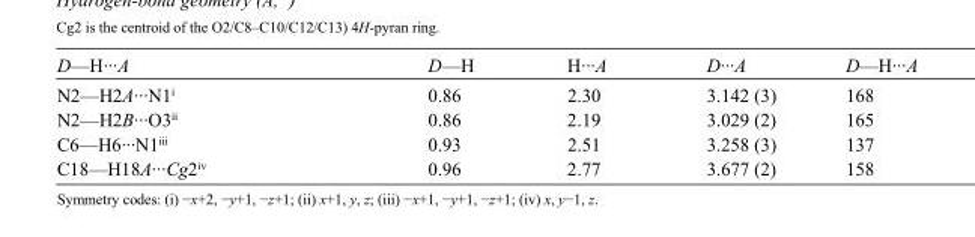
<table><tbody><tr><td>D—H···A</td><td>D—H</td><td>H···A</td><td>D···A</td><td>D—H···A</td></tr><tr><td>N2—H2A···N1<sup>i</sup></td><td>0.86</td><td>2.30</td><td>3.142 (3)</td><td>168</td></tr><tr><td>N2—H2B···O3<sup>ii</sup></td><td>0.86</td><td>2.19</td><td>3.029 (2)</td><td>165</td></tr><tr><td>C6—H6···N1<sup>iii</sup></td><td>0.93</td><td>2.51</td><td>3.258 (3)</td><td>137</td></tr><tr><td>C18—H18A···Cg2<sup>iv</sup></td><td>0.96</td><td>2.77</td><td>3.677 (2)</td><td>158</td></tr></tbody></table>